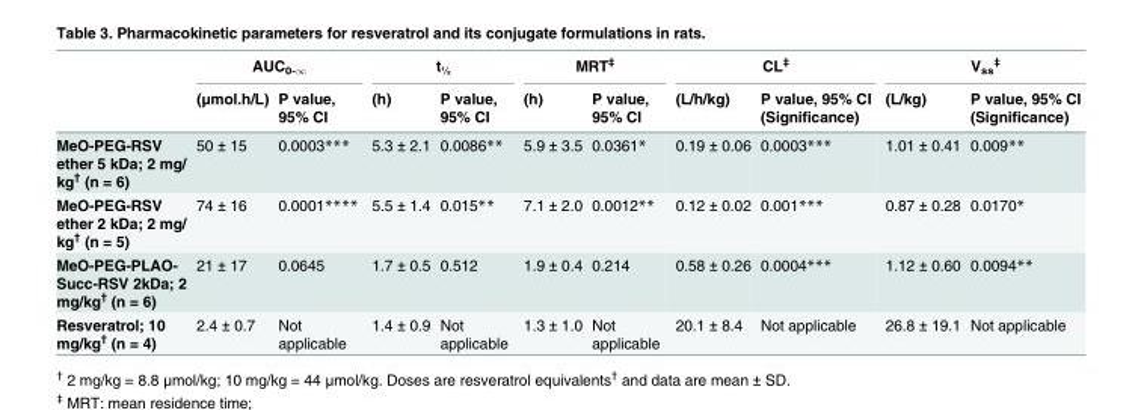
<table><thead><tr><td rowspan="2"></td><td colspan="2">AUC<sub>0-∞</sub></td><td colspan="2">t<sub>½</sub></td><td colspan="2">MRT<sup>‡</sup></td><td colspan="2">CL<sup>‡</sup></td><td colspan="2">V<sub>ss</sub> <sup>‡</sup></td></tr><tr><td>(μmol.h/L)</td><td>P value, 95% CI</td><td>(h)</td><td>P value, 95% CI</td><td>(h)</td><td>P value, 95% CI</td><td>(L/h/kg)</td><td>P value, 95% CI (Significance)</td><td>(L/kg)</td><td>P value, 95% CI (Significance)</td></tr></thead><tbody><tr><td>MeO-PEG-RSV ether 5 kDa; 2 mg/ kg<sup>†</sup> (n = 6)</td><td>50 ± 15</td><td>0.0003***</td><td>5.3 ± 2.1</td><td>0.0086**</td><td>5.9 ± 3.5</td><td>0.0361*</td><td>0.19 ± 0.06</td><td>0.0003***</td><td>1.01 ± 0.41</td><td>0.009**</td></tr><tr><td>MeO-PEG-RSV ether 2 kDa; 2 mg/ kg<sup>†</sup> (n = 5)</td><td>74 ± 16</td><td>0.0001****</td><td>5.5 ± 1.4</td><td>0.015**</td><td>7.1 ± 2.0</td><td>0.0012**</td><td>0.12 ± 0.02</td><td>0.001***</td><td>0.87 ± 0.28</td><td>0.0170*</td></tr><tr><td>MeO-PEG-PLAO- Succ-RSV 2kDa; 2 mg/kg<sup>†</sup> (n = 6)</td><td>21 ± 17</td><td>0.0645</td><td>1.7 ± 0.5</td><td>0.512</td><td>1.9 ± 0.4</td><td>0.214</td><td>0.58 ± 0.26</td><td>0.0004***</td><td>1.12 ± 0.60</td><td>0.0094**</td></tr><tr><td>Resveratrol; 10 mg/kg<sup>†</sup> (n = 4)</td><td>2.4 ± 0.7</td><td>Not applicable</td><td>1.4 ± 0.9</td><td>Not applicable</td><td>1.3 ± 1.0</td><td>Not applicable</td><td>20.1 ± 8.4</td><td>Not applicable</td><td>26.8 ± 19.1</td><td>Not applicable</td></tr></tbody></table>